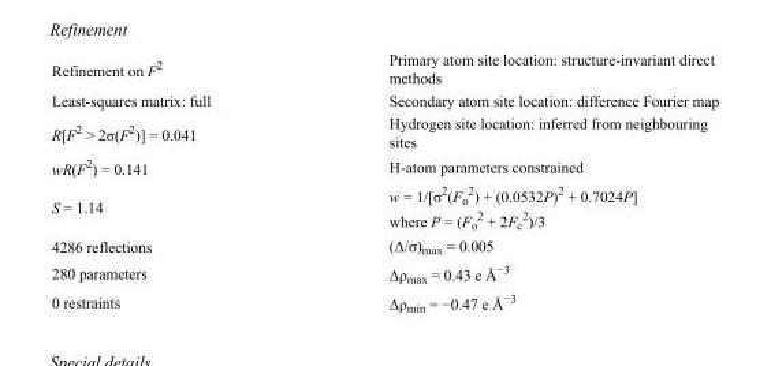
<table><tbody><tr><td>Refinement on F<sup>2</sup></td><td>Primary atom site location: structure-invariant direct methods</td></tr><tr><td>Least-squares matrix: full</td><td>Secondary atom site location: difference Fourier map</td></tr><tr><td>R[F<sup>2</sup> &gt; 2σ(F<sup>2</sup>)] = 0.041</td><td>Hydrogen site location: inferred from neighbouring sites</td></tr><tr><td>wR(F<sup>2</sup>) = 0.141</td><td>H-atom parameters constrained</td></tr><tr><td>S = 1.14</td><td>w = 1/[σ<sup>2</sup>(F<sub>o</sub> <sup>2</sup>) + (0.0532P)<sup>2</sup> + 0.7024P] where P = (F<sub>o</sub> <sup>2</sup> + 2F<sub>c</sub> <sup>2</sup>)/3</td></tr><tr><td>4286 reflections</td><td>(Δ/σ)<sub>max</sub> = 0.005</td></tr><tr><td>280 parameters</td><td>Δρ<sub>max</sub> = 0.43 e Å<sup>−3</sup></td></tr><tr><td>0 restraints</td><td>Δρ<sub>min</sub> = −0.47 e Å<sup>−3</sup></td></tr></tbody></table>